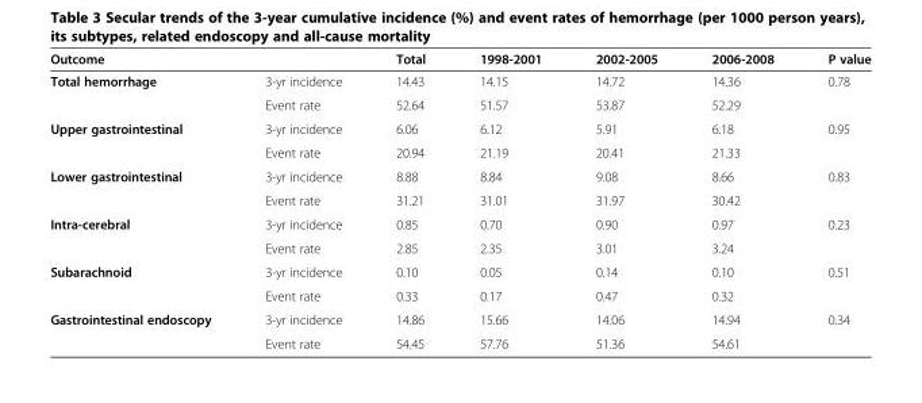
<table><thead><tr><td>Outcome</td><td></td><td>Total</td><td>1998-2001</td><td>2002-2005</td><td>2006-2008</td><td>P value</td></tr></thead><tbody><tr><td rowspan="2">Total hemorrhage</td><td>3-yr incidence</td><td>14.43</td><td>14.15</td><td>14.72</td><td>14.36</td><td>0.78</td></tr><tr><td>Event rate</td><td>52.64</td><td>51.57</td><td>53.87</td><td>52.29</td><td></td></tr><tr><td rowspan="2">Upper gastrointestinal</td><td>3-yr incidence</td><td>6.06</td><td>6.12</td><td>5.91</td><td>6.18</td><td>0.95</td></tr><tr><td>Event rate</td><td>20.94</td><td>21.19</td><td>20.41</td><td>21.33</td><td></td></tr><tr><td rowspan="2">Lower gastrointestinal</td><td>3-yr incidence</td><td>8.88</td><td>8.84</td><td>9.08</td><td>8.66</td><td>0.83</td></tr><tr><td>Event rate</td><td>31.21</td><td>31.01</td><td>31.97</td><td>30.42</td><td></td></tr><tr><td rowspan="2">Intra-cerebral</td><td>3-yr incidence</td><td>0.85</td><td>0.70</td><td>0.90</td><td>0.97</td><td>0.23</td></tr><tr><td>Event rate</td><td>2.85</td><td>2.35</td><td>3.01</td><td>3.24</td><td></td></tr><tr><td rowspan="2">Subarachnoid</td><td>3-yr incidence</td><td>0.10</td><td>0.05</td><td>0.14</td><td>0.10</td><td>0.51</td></tr><tr><td>Event rate</td><td>0.33</td><td>0.17</td><td>0.47</td><td>0.32</td><td></td></tr><tr><td rowspan="2">Gastrointestinal endoscopy</td><td>3-yr incidence</td><td>14.86</td><td>15.66</td><td>14.06</td><td>14.94</td><td>0.34</td></tr><tr><td>Event rate</td><td>54.45</td><td>57.76</td><td>51.36</td><td>54.61</td><td></td></tr></tbody></table>